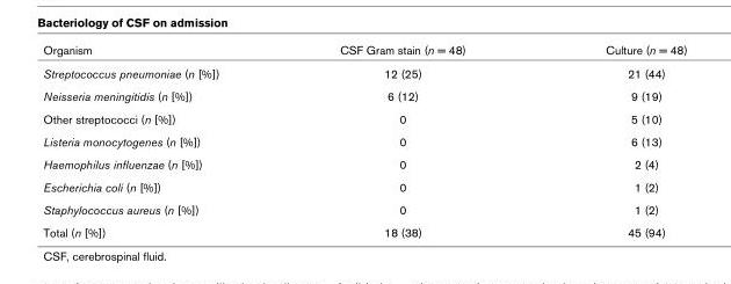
<table><thead><tr><td>Organism</td><td>CSF Gram stain (n = 48)</td><td>Culture (n = 48)</td></tr></thead><tbody><tr><td>Streptococcus pneumoniae (n [%])</td><td>12 (25)</td><td>21 (44)</td></tr><tr><td>Neisseria meningitidis (n [%])</td><td>6 (12)</td><td>9 (19)</td></tr><tr><td>Other streptococci (n [%])</td><td>0</td><td>5 (10)</td></tr><tr><td>Listeria monocytogenes (n [%])</td><td>0</td><td>6 (13)</td></tr><tr><td>Haemophilus influenzae (n [%])</td><td>0</td><td>2 (4)</td></tr><tr><td>Escherichia coli (n [%])</td><td>0</td><td>1 (2)</td></tr><tr><td>Staphylococcus aureus (n [%])</td><td>0</td><td>1 (2)</td></tr><tr><td>Total (n [%])</td><td>18 (38)</td><td>45 (94)</td></tr></tbody></table>